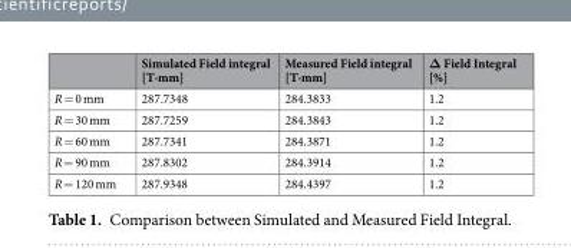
<table><thead><tr><td></td><td>Simulated Field integral [T·mm]</td><td>Measured Field integral [T·mm]</td><td>Δ Field Integral [%]</td></tr></thead><tbody><tr><td>R = 0 mm</td><td>287.7348</td><td>284.3833</td><td>1.2</td></tr><tr><td>R = 30 mm</td><td>287.7259</td><td>284.3843</td><td>1.2</td></tr><tr><td>R = 60 mm</td><td>287.7341</td><td>284.3871</td><td>1.2</td></tr><tr><td>R = 90 mm</td><td>287.8302</td><td>284.3914</td><td>1.2</td></tr><tr><td>R = 120 mm</td><td>287.9348</td><td>284.4397</td><td>1.2</td></tr></tbody></table>